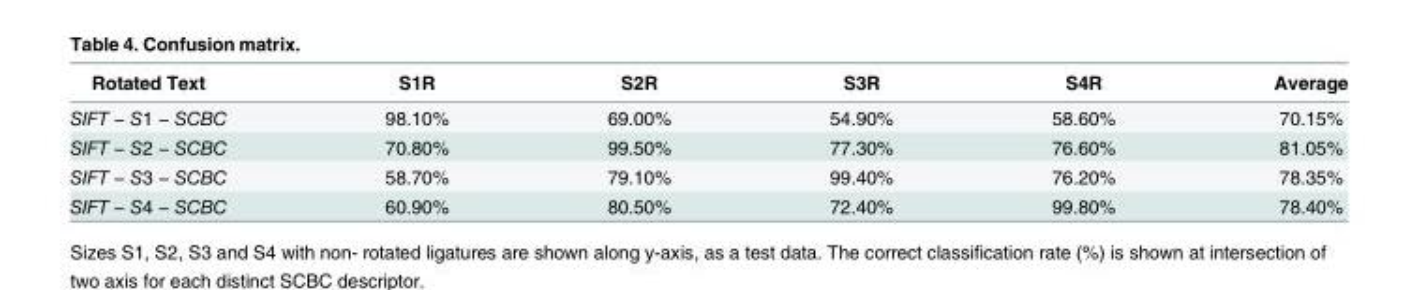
<table><thead><tr><td>Rotated Text</td><td>S1R</td><td>S2R</td><td>S3R</td><td>S4R</td><td>Average</td></tr></thead><tbody><tr><td>SIFT − S1 − SCBC</td><td>98.10%</td><td>69.00%</td><td>54.90%</td><td>58.60%</td><td>70.15%</td></tr><tr><td>SIFT − S2 − SCBC</td><td>70.80%</td><td>99.50%</td><td>77.30%</td><td>76.60%</td><td>81.05%</td></tr><tr><td>SIFT − S3 − SCBC</td><td>58.70%</td><td>79.10%</td><td>99.40%</td><td>76.20%</td><td>78.35%</td></tr><tr><td>SIFT − S4 − SCBC</td><td>60.90%</td><td>80.50%</td><td>72.40%</td><td>99.80%</td><td>78.40%</td></tr></tbody></table>